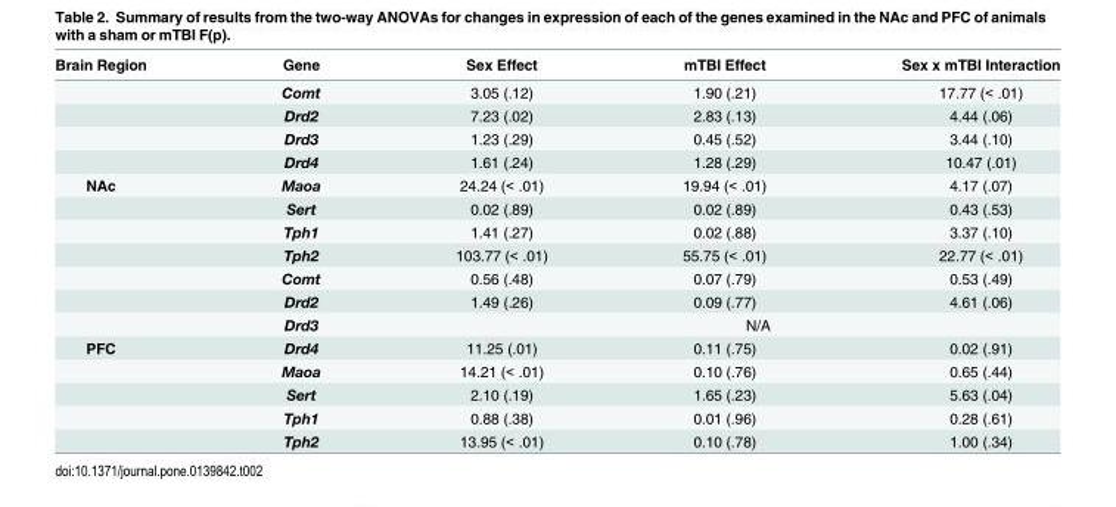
<table><thead><tr><td>Brain Region</td><td>Gene</td><td>Sex Effect</td><td>mTBI Effect</td><td>Sex x mTBI Interaction</td></tr></thead><tbody><tr><td></td><td>Comt</td><td>3.05 (.12)</td><td>1.90 (.21)</td><td>17.77 (&lt; .01)</td></tr><tr><td></td><td>Drd2</td><td>7.23 (.02)</td><td>2.83 (.13)</td><td>4.44 (.06)</td></tr><tr><td></td><td>Drd3</td><td>1.23 (.29)</td><td>0.45 (.52)</td><td>3.44 (.10)</td></tr><tr><td></td><td>Drd4</td><td>1.61 (.24)</td><td>1.28 (.29)</td><td>10.47 (.01)</td></tr><tr><td rowspan="7">NAc</td><td>Maoa</td><td>24.24 (&lt; .01)</td><td>19.94 (&lt; .01)</td><td>4.17 (.07)</td></tr><tr><td>Sert</td><td>0.02 (.89)</td><td>0.02 (.89)</td><td>0.43 (.53)</td></tr><tr><td>Tph1</td><td>1.41 (.27)</td><td>0.02 (.88)</td><td>3.37 (.10)</td></tr><tr><td>Tph2</td><td>103.77 (&lt; .01)</td><td>55.75 (&lt; .01)</td><td>22.77 (&lt; .01)</td></tr><tr><td>Comt</td><td>0.56 (.48)</td><td>0.07 (.79)</td><td>0.53 (.49)</td></tr><tr><td>Drd2</td><td>1.49 (.26)</td><td>0.09 (.77)</td><td>4.61 (.06)</td></tr><tr><td>Drd3</td><td colspan="3">N/A</td></tr><tr><td rowspan="5">PFC</td><td>Drd4</td><td>11.25 (.01)</td><td>0.11 (.75)</td><td>0.02 (.91)</td></tr><tr><td>Maoa</td><td>14.21 (&lt; .01)</td><td>0.10 (.76)</td><td>0.65 (.44)</td></tr><tr><td>Sert</td><td>2.10 (.19)</td><td>1.65 (.23)</td><td>5.63 (.04)</td></tr><tr><td>Tph1</td><td>0.88 (.38)</td><td>0.01 (.96)</td><td>0.28 (.61)</td></tr><tr><td>Tph2</td><td>13.95 (&lt; .01)</td><td>0.10 (.78)</td><td>1.00 (.34)</td></tr></tbody></table>